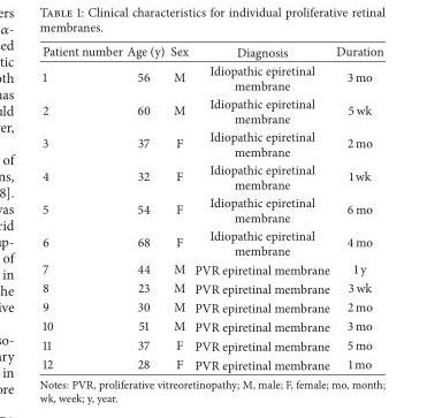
<table><thead><tr><td>Patient number</td><td>Age (y)</td><td>Sex</td><td>Diagnosis</td><td>Duration</td></tr></thead><tbody><tr><td>1</td><td>56</td><td>M</td><td>Idiopathic epiretinal membrane</td><td>3 mo</td></tr><tr><td>2</td><td>60</td><td>M</td><td>Idiopathic epiretinal membrane</td><td>5 wk</td></tr><tr><td>3</td><td>37</td><td>F</td><td>Idiopathic epiretinal membrane</td><td>2 mo</td></tr><tr><td>4</td><td>32</td><td>F</td><td>Idiopathic epiretinal membrane</td><td>1 wk</td></tr><tr><td>5</td><td>54</td><td>F</td><td>Idiopathic epiretinal membrane</td><td>6 mo</td></tr><tr><td>6</td><td>68</td><td>F</td><td>Idiopathic epiretinal membrane</td><td>4 mo</td></tr><tr><td>7</td><td>44</td><td>M</td><td>PVR epiretinal membrane</td><td>1 y</td></tr><tr><td>8</td><td>23</td><td>M</td><td>PVR epiretinal membrane</td><td>3 wk</td></tr><tr><td>9</td><td>30</td><td>M</td><td>PVR epiretinal membrane</td><td>2 mo</td></tr><tr><td>10</td><td>51</td><td>M</td><td>PVR epiretinal membrane</td><td>3 mo</td></tr><tr><td>11</td><td>37</td><td>F</td><td>PVR epiretinal membrane</td><td>5 mo</td></tr><tr><td>12</td><td>28</td><td>F</td><td>PVR epiretinal membrane</td><td>1 mo</td></tr></tbody></table>